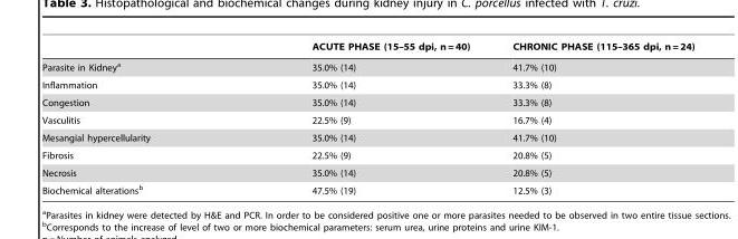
<table><thead><tr><td></td><td>ACUTE PHASE (15–55 dpi, n = 40)</td><td>CHRONIC PHASE (115–365 dpi, n = 24)</td></tr></thead><tbody><tr><td>Parasite in Kidney<sup>a</sup></td><td>35.0% (14)</td><td>41.7% (10)</td></tr><tr><td>Inflammation</td><td>35.0% (14)</td><td>33.3% (8)</td></tr><tr><td>Congestion</td><td>35.0% (14)</td><td>33.3% (8)</td></tr><tr><td>Vasculitis</td><td>22.5% (9)</td><td>16.7% (4)</td></tr><tr><td>Mesangial hypercellularity</td><td>35.0% (14)</td><td>41.7% (10)</td></tr><tr><td>Fibrosis</td><td>22.5% (9)</td><td>20.8% (5)</td></tr><tr><td>Necrosis</td><td>35.0% (14)</td><td>20.8% (5)</td></tr><tr><td>Biochemical alterations<sup>b</sup></td><td>47.5% (19)</td><td>12.5% (3)</td></tr></tbody></table>